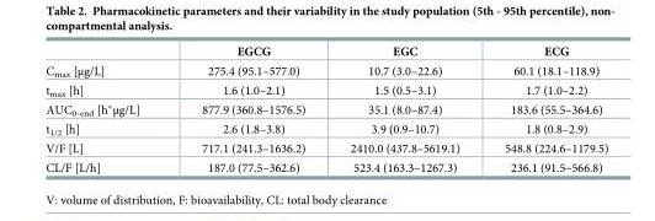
<table><thead><tr><td></td><td>EGCG</td><td>EGC</td><td>ECG</td></tr></thead><tbody><tr><td>C<sub>max</sub> [μg/L]</td><td>275.4 (95.1–577.0)</td><td>10.7 (3.0–22.6)</td><td>60.1 (18.1–118.9)</td></tr><tr><td>t<sub>max</sub> [h]</td><td>1.6 (1.0–2.1)</td><td>1.5 (0.5–3.1)</td><td>1.7 (1.0–2.2)</td></tr><tr><td>AUC<sub>0-end</sub> [h*μg/L]</td><td>877.9 (360.8–1576.5)</td><td>35.1 (8.0–87.4)</td><td>183.6 (55.5–364.6)</td></tr><tr><td>t<sub>1/2</sub> [h]</td><td>2.6 (1.8–3.8)</td><td>3.9 (0.9–10.7)</td><td>1.8 (0.8–2.9)</td></tr><tr><td>V/F [L]</td><td>717.1 (241.3–1636.2)</td><td>2410.0 (437.8–5619.1)</td><td>548.8 (224.6–1179.5)</td></tr><tr><td>CL/F [L/h]</td><td>187.0 (77.5–362.6)</td><td>523.4 (163.3–1267.3)</td><td>236.1 (91.5–566.8)</td></tr></tbody></table>